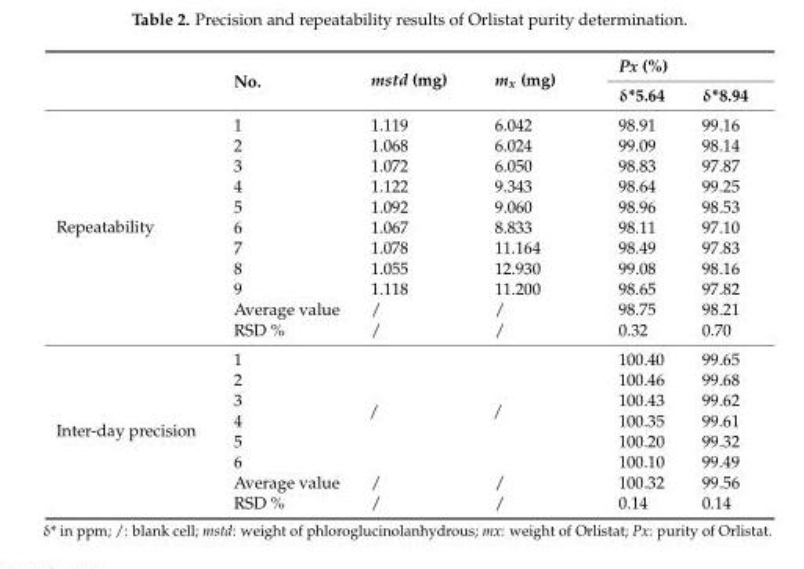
<table><thead><tr><td rowspan="2"></td><td rowspan="2">No.</td><td rowspan="2">mstd (mg)</td><td rowspan="2">m<sub>x</sub> (mg)</td><td colspan="2">Px (%)</td></tr><tr><td>δ*5.64</td><td>δ*8.94</td></tr></thead><tbody><tr><td rowspan="11">Repeatability</td><td>1</td><td>1.119</td><td>6.042</td><td>98.91</td><td>99.16</td></tr><tr><td>2</td><td>1.068</td><td>6.024</td><td>99.09</td><td>98.14</td></tr><tr><td>3</td><td>1.072</td><td>6.050</td><td>98.83</td><td>97.87</td></tr><tr><td>4</td><td>1.122</td><td>9.343</td><td>98.64</td><td>99.25</td></tr><tr><td>5</td><td>1.092</td><td>9.060</td><td>98.96</td><td>98.53</td></tr><tr><td>6</td><td>1.067</td><td>8.833</td><td>98.11</td><td>97.10</td></tr><tr><td>7</td><td>1.078</td><td>11.164</td><td>98.49</td><td>97.83</td></tr><tr><td>8</td><td>1.055</td><td>12.930</td><td>99.08</td><td>98.16</td></tr><tr><td>9</td><td>1.118</td><td>11.200</td><td>98.65</td><td>97.82</td></tr><tr><td>Average value</td><td>/</td><td>/</td><td>98.75</td><td>98.21</td></tr><tr><td>RSD %</td><td>/</td><td>/</td><td>0.32</td><td>0.70</td></tr><tr><td rowspan="8">Inter-day precision</td><td>1</td><td rowspan="6">/</td><td rowspan="6">/</td><td>100.40</td><td>99.65</td></tr><tr><td>2</td><td>100.46</td><td>99.68</td></tr><tr><td>3</td><td>100.43</td><td>99.62</td></tr><tr><td>4</td><td>100.35</td><td>99.61</td></tr><tr><td>5</td><td>100.20</td><td>99.32</td></tr><tr><td>6</td><td>100.10</td><td>99.49</td></tr><tr><td>Average value</td><td>/</td><td>/</td><td>100.32</td><td>99.56</td></tr><tr><td>RSD %</td><td>/</td><td>/</td><td>0.14</td><td>0.14</td></tr></tbody></table>